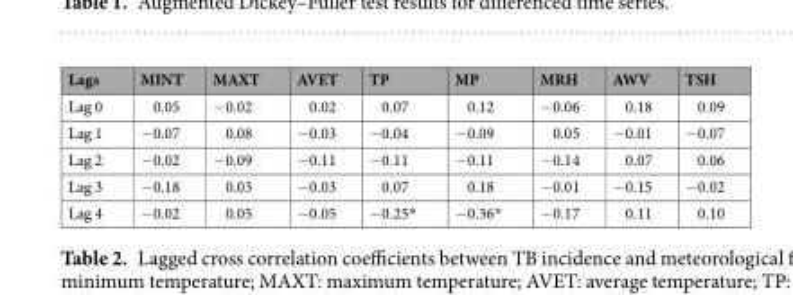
<table><thead><tr><td>Lags</td><td>MINT</td><td>MAXT</td><td>AVET</td><td>TP</td><td>MP</td><td>MRH</td><td>AWV</td><td>TSH</td></tr></thead><tbody><tr><td>Lag 0</td><td>0.05</td><td>−0.02</td><td>0.02</td><td>0.07</td><td>0.12</td><td>−0.06</td><td>0.18</td><td>0.09</td></tr><tr><td>Lag 1</td><td>−0.07</td><td>0.08</td><td>−0.03</td><td>−0.04</td><td>−0.09</td><td>0.05</td><td>−0.01</td><td>−0.07</td></tr><tr><td>Lag 2</td><td>−0.02</td><td>−0.09</td><td>−0.11</td><td>−0.11</td><td>−0.11</td><td>−0.14</td><td>0.07</td><td>0.06</td></tr><tr><td>Lag 3</td><td>−0.18</td><td>0.03</td><td>−0.03</td><td>0.07</td><td>0.18</td><td>−0.01</td><td>−0.15</td><td>−0.02</td></tr><tr><td>Lag 4</td><td>−0.02</td><td>0.05</td><td>−0.05</td><td>−0.25*</td><td>−0.36*</td><td>−0.17</td><td>0.11</td><td>0.10</td></tr></tbody></table>